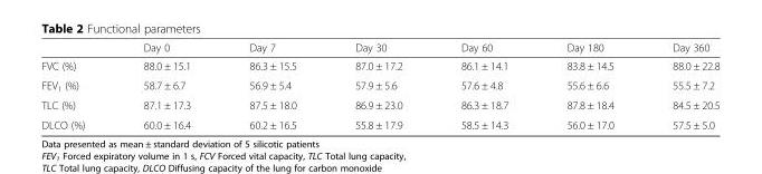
<table><thead><tr><td></td><td>Day 0</td><td>Day 7</td><td>Day 30</td><td>Day 60</td><td>Day 180</td><td>Day 360</td></tr></thead><tbody><tr><td>FVC (%)</td><td>88.0 ± 15.1</td><td>86.3 ± 15.5</td><td>87.0 ± 17.2</td><td>86.1 ± 14.1</td><td>83.8 ± 14.5</td><td>88.0 ± 22.8</td></tr><tr><td>FEV<sub>1</sub> (%)</td><td>58.7 ± 6.7</td><td>56.9 ± 5.4</td><td>57.9 ± 5.6</td><td>57.6 ± 4.8</td><td>55.6 ± 6.6</td><td>55.5 ± 7.2</td></tr><tr><td>TLC (%)</td><td>87.1 ± 17.3</td><td>87.5 ± 18.0</td><td>86.9 ± 23.0</td><td>86.3 ± 18.7</td><td>87.8 ± 18.4</td><td>84.5 ± 20.5</td></tr><tr><td>DLCO (%)</td><td>60.0 ± 16.4</td><td>60.2 ± 16.5</td><td>55.8 ± 17.9</td><td>58.5 ± 14.3</td><td>56.0 ± 17.0</td><td>57.5 ± 5.0</td></tr></tbody></table>